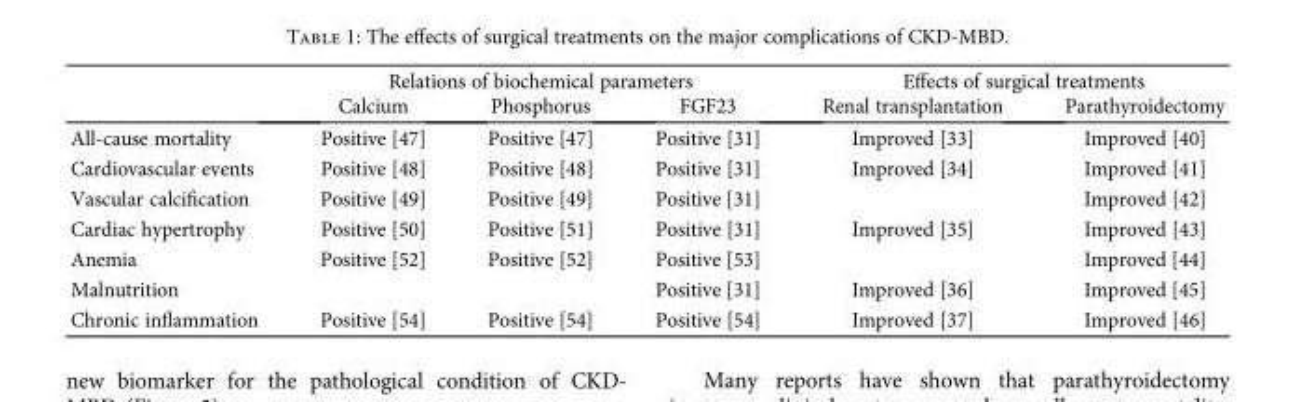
<table><thead><tr><td rowspan="2"></td><td colspan="3">Relations of biochemical parameters</td><td colspan="2">Effects of surgical treatments</td></tr><tr><td>Calcium</td><td>Phosphorus</td><td>FGF23</td><td>Renal transplantation</td><td>Parathyroidectomy</td></tr></thead><tbody><tr><td>All-cause mortality</td><td>Positive [47]</td><td>Positive [47]</td><td>Positive [31]</td><td>Improved [33]</td><td>Improved [40]</td></tr><tr><td>Cardiovascular events</td><td>Positive [48]</td><td>Positive [48]</td><td>Positive [31]</td><td>Improved [34]</td><td>Improved [41]</td></tr><tr><td>Vascular calcification</td><td>Positive [49]</td><td>Positive [49]</td><td>Positive [31]</td><td></td><td>Improved [42]</td></tr><tr><td>Cardiac hypertrophy</td><td>Positive [50]</td><td>Positive [51]</td><td>Positive [31]</td><td>Improved [35]</td><td>Improved [43]</td></tr><tr><td>Anemia</td><td>Positive [52]</td><td>Positive [52]</td><td>Positive [53]</td><td></td><td>Improved [44]</td></tr><tr><td>Malnutrition</td><td></td><td></td><td>Positive [31]</td><td>Improved [36]</td><td>Improved [45]</td></tr><tr><td>Chronic inflammation</td><td>Positive [54]</td><td>Positive [54]</td><td>Positive [54]</td><td>Improved [37]</td><td>Improved [46]</td></tr></tbody></table>